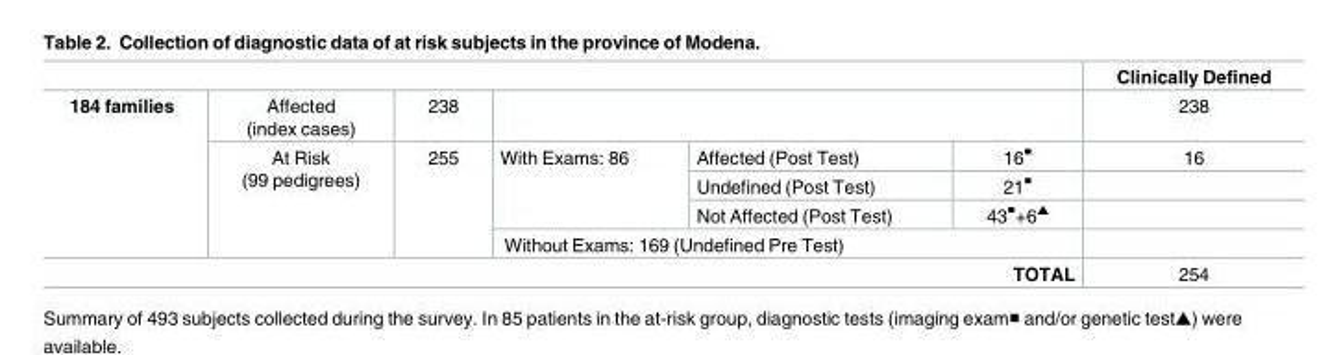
<table><thead><tr><td></td><td></td><td></td><td></td><td></td><td></td><td>Clinically Defined</td></tr></thead><tbody><tr><td rowspan="5">184 families</td><td>Affected (index cases)</td><td>238</td><td colspan="3"></td><td>238</td></tr><tr><td rowspan="4">At Risk (99 pedigrees)</td><td rowspan="4">255</td><td rowspan="3">With Exams: 86</td><td>Affected (Post Test)</td><td>16<sup>■</sup></td><td>16</td></tr><tr><td>Undefined (Post Test)</td><td>21<sup>■</sup></td><td></td></tr><tr><td>Not Affected (Post Test)</td><td>43<sup>■</sup>+6<sup>▲</sup></td><td></td></tr><tr><td colspan="3">Without Exams: 169 (Undefined Pre Test)</td><td></td></tr><tr><td colspan="6">TOTAL</td><td>254</td></tr></tbody></table>